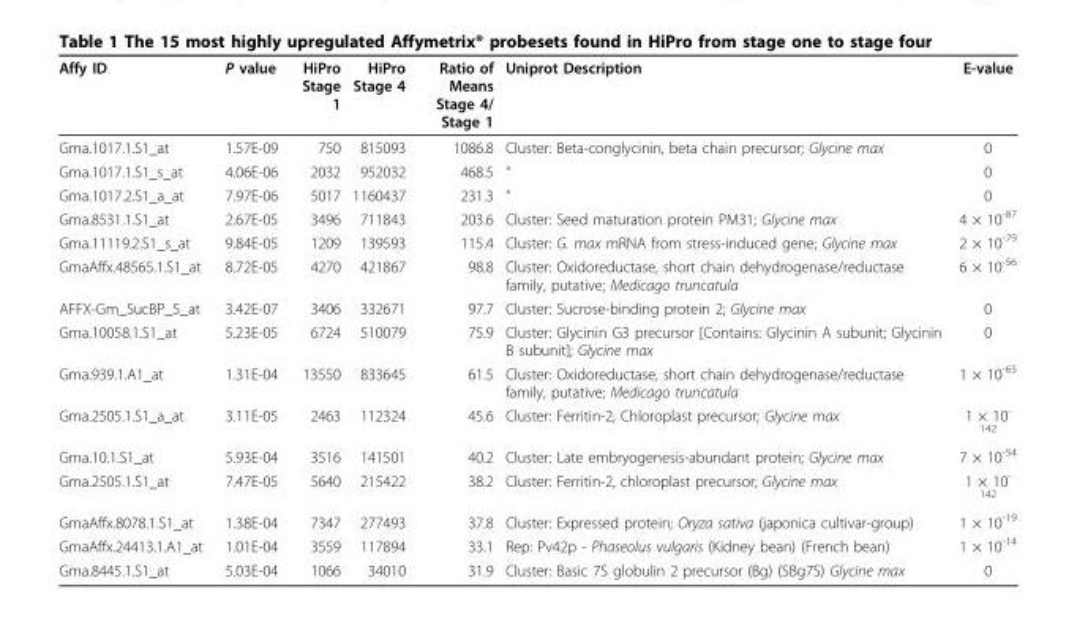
<table><thead><tr><td>Affy ID</td><td>P value</td><td>HiPro Stage 1</td><td>HiPro Stage 4</td><td>Ratio of Means Stage 4/ Stage 1</td><td>Uniprot Description</td><td>E-value</td></tr></thead><tbody><tr><td>Gma.1017.1.S1_at</td><td>1.57E-09</td><td>750</td><td>815093</td><td>1086.8</td><td>Cluster: Beta-conglycinin, beta chain precursor; Glycine max</td><td>0</td></tr><tr><td>Gma.1017.1.S1_s_at</td><td>4.06E-06</td><td>2032</td><td>952032</td><td>468.5</td><td>“</td><td>0</td></tr><tr><td>Gma.1017.2.S1_a_at</td><td>7.97E-06</td><td>5017</td><td>1160437</td><td>231.3</td><td>“</td><td>0</td></tr><tr><td>Gma.8531.1.S1_at</td><td>2.67E-05</td><td>3496</td><td>711843</td><td>203.6</td><td>Cluster: Seed maturation protein PM31; Glycine max</td><td>4 × 10<sup>-87</sup></td></tr><tr><td>Gma.11119.2.S1_s_at</td><td>9.84E-05</td><td>1209</td><td>139593</td><td>115.4</td><td>Cluster: G. max mRNA from stress-induced gene; Glycine max</td><td>2 × 10<sup>-79</sup></td></tr><tr><td>GmaAffx.48565.1.S1_at</td><td>8.72E-05</td><td>4270</td><td>421867</td><td>98.8</td><td>Cluster: Oxidoreductase, short chain dehydrogenase/reductase family, putative; Medicago truncatula</td><td>6 × 10<sup>-56</sup></td></tr><tr><td>AFFX-Gm_SucBP_5_at</td><td>3.42E-07</td><td>3406</td><td>332671</td><td>97.7</td><td>Cluster: Sucrose-binding protein 2; Glycine max</td><td>0</td></tr><tr><td>Gma.10058.1.S1_at</td><td>5.23E-05</td><td>6724</td><td>510079</td><td>75.9</td><td>Cluster: Glycinin G3 precursor [Contains: Glycinin A subunit; Glycinin B subunit]; Glycine max</td><td>0</td></tr><tr><td>Gma.939.1.A1_at</td><td>1.31E-04</td><td>13550</td><td>833645</td><td>61.5</td><td>Cluster: Oxidoreductase, short chain dehydrogenase/reductase family, putative; Medicago truncatula</td><td>1 × 10<sup>-65</sup></td></tr><tr><td>Gma.2505.1.S1_a_at</td><td>3.11E-05</td><td>2463</td><td>112324</td><td>45.6</td><td>Cluster: Ferritin-2, Chloroplast precursor; Glycine max</td><td>1 × 10<sup>- 142</sup></td></tr><tr><td>Gma.10.1.S1_at</td><td>5.93E-04</td><td>3516</td><td>141501</td><td>40.2</td><td>Cluster: Late embryogenesis-abundant protein; Glycine max</td><td>7 × 10<sup>-54</sup></td></tr><tr><td>Gma.2505.1.S1_at</td><td>7.47E-05</td><td>5640</td><td>215422</td><td>38.2</td><td>Cluster: Ferritin-2, chloroplast precursor; Glycine max</td><td>1 × 10<sup>- 142</sup></td></tr><tr><td>GmaAffx.8078.1.S1_at</td><td>1.38E-04</td><td>7347</td><td>277493</td><td>37.8</td><td>Cluster: Expressed protein; Oryza sativa (japonica cultivar-group)</td><td>1 × 10<sup>-19</sup></td></tr><tr><td>GmaAffx.24413.1.A1_at</td><td>1.01E-04</td><td>3559</td><td>117894</td><td>33.1</td><td>Rep: Pv42p - Phaseolus vulgaris (Kidney bean) (French bean)</td><td>1 × 10<sup>-14</sup></td></tr><tr><td>Gma.8445.1.S1_at</td><td>5.03E-04</td><td>1066</td><td>34010</td><td>31.9</td><td>Cluster: Basic 7S globulin 2 precursor (Bg) (SBg7S) Glycine max</td><td>0</td></tr></tbody></table>